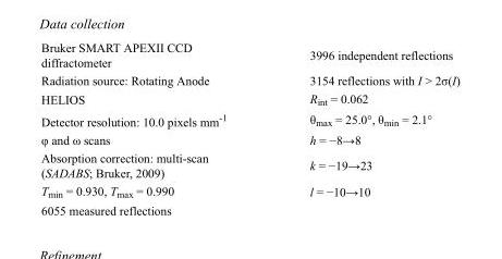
<table><tbody><tr><td>Bruker SMART APEXII CCD diffractometer</td><td>3996 independent reflections</td></tr><tr><td>Radiation source: Rotating Anode</td><td>3154 reflections with I &gt; 2σ(I)</td></tr><tr><td>HELIOS</td><td>R<sub>int</sub> = 0.062</td></tr><tr><td>Detector resolution: 10.0 pixels mm<sup>-1</sup></td><td>θ<sub>max</sub> = 25.0°, θ<sub>min</sub> = 2.1°</td></tr><tr><td>φ and ω scans</td><td>h = −8→8</td></tr><tr><td>Absorption correction: multi-scan (SADABS; Bruker, 2009)</td><td>k = −19→23</td></tr><tr><td>T<sub>min</sub> = 0.930, T<sub>max</sub> = 0.990</td><td>l = −10→10</td></tr><tr><td>6055 measured reflections</td><td></td></tr></tbody></table>